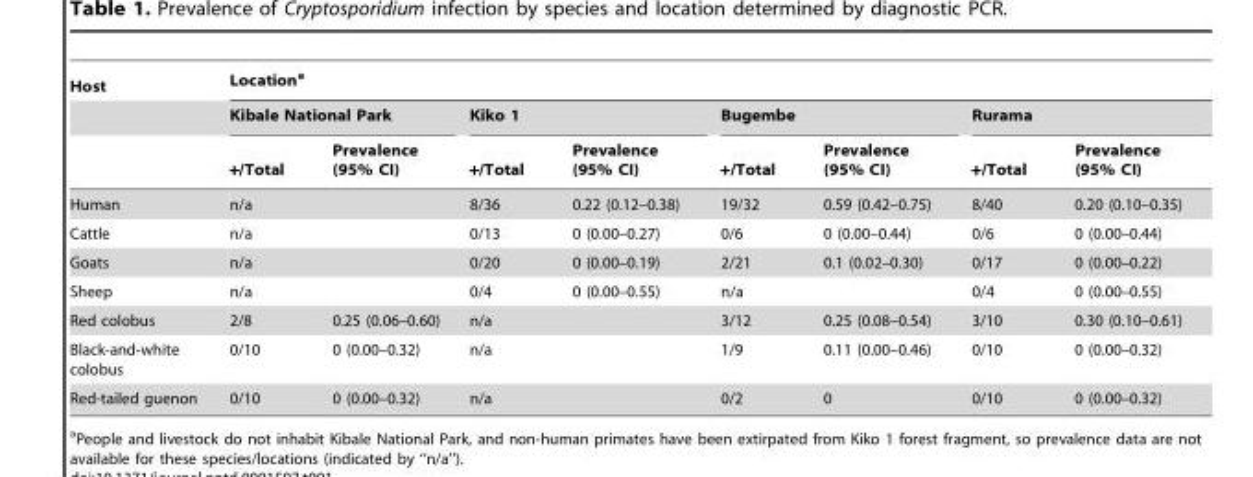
<table><thead><tr><td rowspan="3">Host</td><td colspan="8">Location<sup>a</sup></td></tr><tr><td colspan="2">Kibale National Park</td><td colspan="2">Kiko 1</td><td colspan="2">Bugembe</td><td colspan="2">Rurama</td></tr><tr><td>+/Total</td><td>Prevalence (95% CI)</td><td>+/Total</td><td>Prevalence (95% CI)</td><td>+/Total</td><td>Prevalence (95% CI)</td><td>+/Total</td><td>Prevalence (95% CI)</td></tr></thead><tbody><tr><td>Human</td><td colspan="2">n/a</td><td>8/36</td><td>0.22 (0.12–0.38)</td><td>19/32</td><td>0.59 (0.42–0.75)</td><td>8/40</td><td>0.20 (0.10–0.35)</td></tr><tr><td>Cattle</td><td colspan="2">n/a</td><td>0/13</td><td>0 (0.00–0.27)</td><td>0/6</td><td>0 (0.00–0.44)</td><td>0/6</td><td>0 (0.00–0.44)</td></tr><tr><td>Goats</td><td colspan="2">n/a</td><td>0/20</td><td>0 (0.00–0.19)</td><td>2/21</td><td>0.1 (0.02–0.30)</td><td>0/17</td><td>0 (0.00–0.22)</td></tr><tr><td>Sheep</td><td colspan="2">n/a</td><td>0/4</td><td>0 (0.00–0.55)</td><td>n/a</td><td></td><td>0/4</td><td>0 (0.00–0.55)</td></tr><tr><td>Red colobus</td><td>2/8</td><td>0.25 (0.06–0.60)</td><td colspan="2">n/a</td><td>3/12</td><td>0.25 (0.08–0.54)</td><td>3/10</td><td>0.30 (0.10–0.61)</td></tr><tr><td>Black-and-white colobus</td><td>0/10</td><td>0 (0.00–0.32)</td><td colspan="2">n/a</td><td>1/9</td><td>0.11 (0.00–0.46)</td><td>0/10</td><td>0 (0.00–0.32)</td></tr><tr><td>Red-tailed guenon</td><td>0/10</td><td>0 (0.00–0.32)</td><td colspan="2">n/a</td><td>0/2</td><td>0</td><td>0/10</td><td>0 (0.00–0.32)</td></tr></tbody></table>